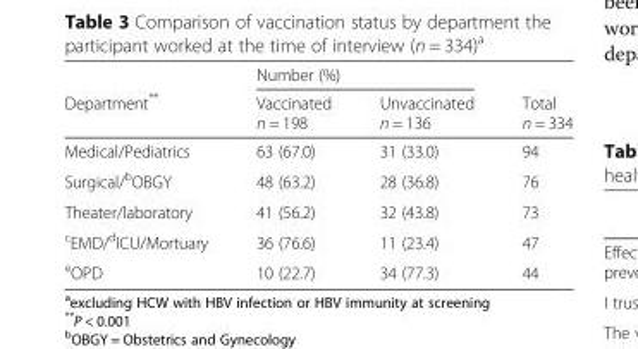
<table><thead><tr><td rowspan="2">Department**</td><td colspan="2">Number (%)</td><td rowspan="2">Total n = 334</td></tr><tr><td>Vaccinated n = 198</td><td>Unvaccinated n = 136</td></tr></thead><tbody><tr><td>Medical/Pediatrics</td><td>63 (67.0)</td><td>31 (33.0)</td><td>94</td></tr><tr><td>Surgical/<sup>b</sup>OBGY</td><td>48 (63.2)</td><td>28 (36.8)</td><td>76</td></tr><tr><td>Theater/laboratory</td><td>41 (56.2)</td><td>32 (43.8)</td><td>73</td></tr><tr><td><sup>c</sup>EMD/<sup>d</sup>ICU/Mortuary</td><td>36 (76.6)</td><td>11 (23.4)</td><td>47</td></tr><tr><td><sup>e</sup>OPD</td><td>10 (22.7)</td><td>34 (77.3)</td><td>44</td></tr></tbody></table>